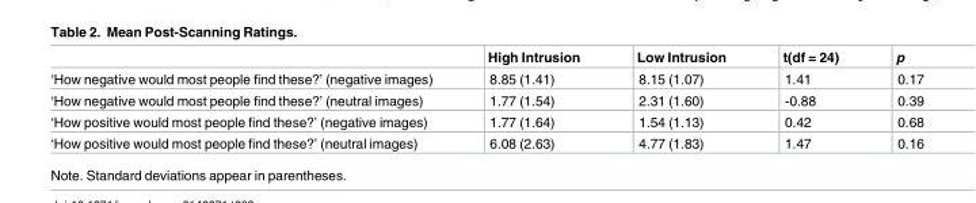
<table><thead><tr><td></td><td>High Intrusion</td><td>Low Intrusion</td><td>t(df = 24)</td><td>p</td></tr></thead><tbody><tr><td>‘How negative would most people find these?’ (negative images)</td><td>8.85 (1.41)</td><td>8.15 (1.07)</td><td>1.41</td><td>0.17</td></tr><tr><td>‘How negative would most people find these?’ (neutral images)</td><td>1.77 (1.54)</td><td>2.31 (1.60)</td><td>-0.88</td><td>0.39</td></tr><tr><td>‘How positive would most people find these?’ (negative images)</td><td>1.77 (1.64)</td><td>1.54 (1.13)</td><td>0.42</td><td>0.68</td></tr><tr><td>‘How positive would most people find these?’ (neutral images)</td><td>6.08 (2.63)</td><td>4.77 (1.83)</td><td>1.47</td><td>0.16</td></tr></tbody></table>